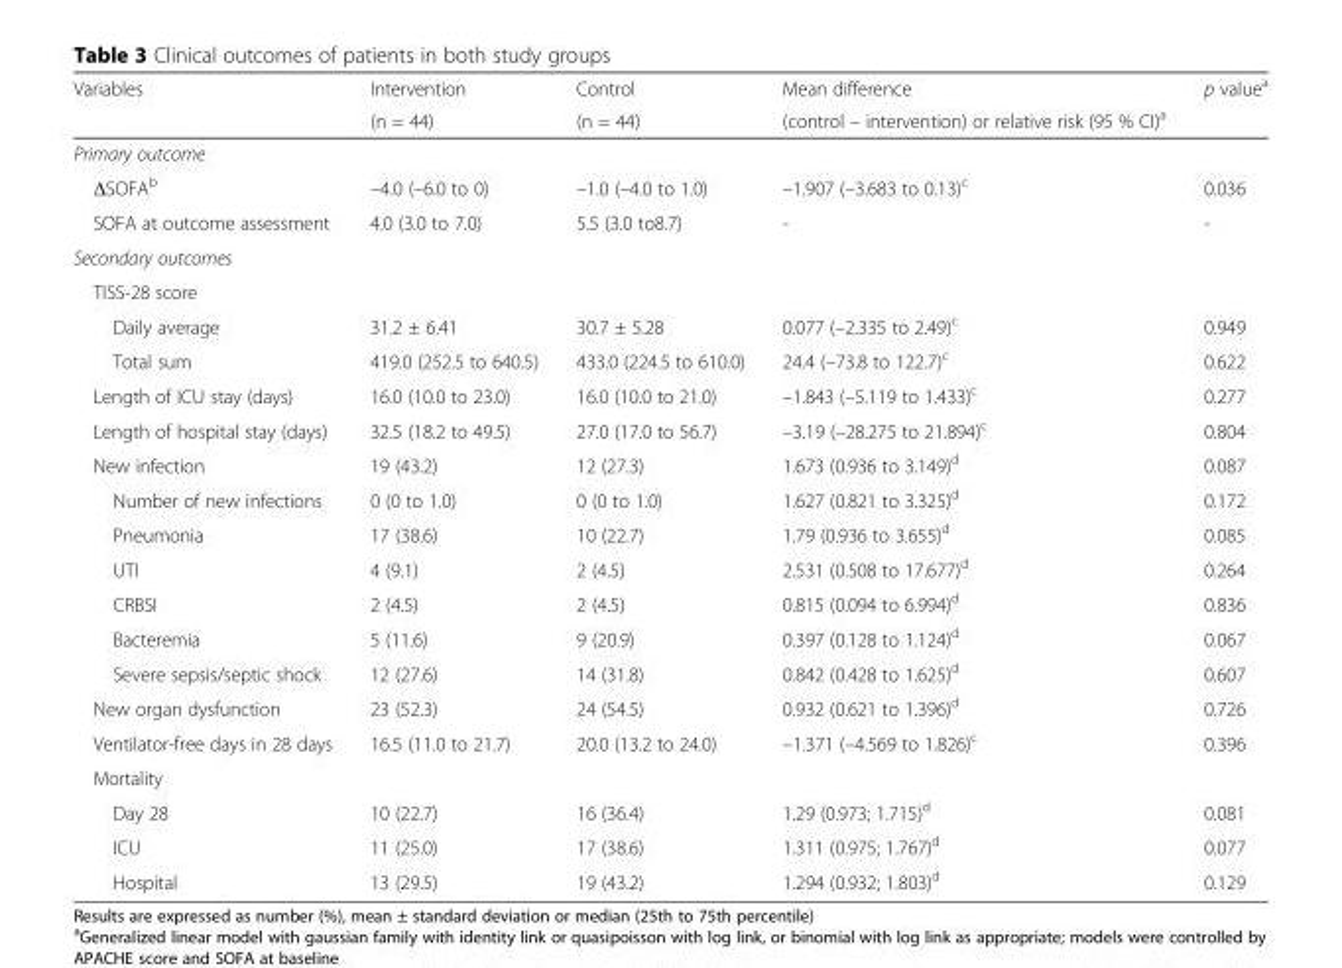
<table><thead><tr><td rowspan="2">Variables</td><td rowspan="2">Intervention (n = 44)</td><td rowspan="2">Control (n = 44)</td><td rowspan="2">Mean difference (control – intervention) or relative risk (95 % CI)<sup>a</sup></td><td rowspan="2">p value<sup>a</sup></td></tr><tr></tr></thead><tbody><tr><td colspan="5">Primary outcome</td></tr><tr><td>ΔSOFA<sup>b</sup></td><td>–4.0 (–6.0 to 0)</td><td>–1.0 (–4.0 to 1.0)</td><td>–1.907 (–3.683 to 0.13)<sup>c</sup></td><td>0.036</td></tr><tr><td>SOFA at outcome assessment</td><td>4.0 (3.0 to 7.0)</td><td>5.5 (3.0 to8.7)</td><td>-</td><td>-</td></tr><tr><td colspan="5">Secondary outcomes</td></tr><tr><td colspan="5">TISS-28 score</td></tr><tr><td>Daily average</td><td>31.2 ± 6.41</td><td>30.7 ± 5.28</td><td>0.077 (–2.335 to 2.49)<sup>c</sup></td><td>0.949</td></tr><tr><td>Total sum</td><td>419.0 (252.5 to 640.5)</td><td>433.0 (224.5 to 610.0)</td><td>24.4 (–73.8 to 122.7)<sup>c</sup></td><td>0.622</td></tr><tr><td>Length of ICU stay (days)</td><td>16.0 (10.0 to 23.0)</td><td>16.0 (10.0 to 21.0)</td><td>–1.843 (–5.119 to 1.433)<sup>c</sup></td><td>0.277</td></tr><tr><td>Length of hospital stay (days)</td><td>32.5 (18.2 to 49.5)</td><td>27.0 (17.0 to 56.7)</td><td>–3.19 (–28.275 to 21.894)<sup>c</sup></td><td>0.804</td></tr><tr><td>New infection</td><td>19 (43.2)</td><td>12 (27.3)</td><td>1.673 (0.936 to 3.149)<sup>d</sup></td><td>0.087</td></tr><tr><td>Number of new infections</td><td>0 (0 to 1.0)</td><td>0 (0 to 1.0)</td><td>1.627 (0.821 to 3.325)<sup>d</sup></td><td>0.172</td></tr><tr><td>Pneumonia</td><td>17 (38.6)</td><td>10 (22.7)</td><td>1.79 (0.936 to 3.655)<sup>d</sup></td><td>0.085</td></tr><tr><td>UTI</td><td>4 (9.1)</td><td>2 (4.5)</td><td>2.531 (0.508 to 17.677)<sup>d</sup></td><td>0.264</td></tr><tr><td>CRBSI</td><td>2 (4.5)</td><td>2 (4.5)</td><td>0.815 (0.094 to 6.994)<sup>d</sup></td><td>0.836</td></tr><tr><td>Bacteremia</td><td>5 (11.6)</td><td>9 (20.9)</td><td>0.397 (0.128 to 1.124)<sup>d</sup></td><td>0.067</td></tr><tr><td>Severe sepsis/septic shock</td><td>12 (27.6)</td><td>14 (31.8)</td><td>0.842 (0.428 to 1.625)<sup>d</sup></td><td>0.607</td></tr><tr><td>New organ dysfunction</td><td>23 (52.3)</td><td>24 (54.5)</td><td>0.932 (0.621 to 1.396)<sup>d</sup></td><td>0.726</td></tr><tr><td>Ventilator-free days in 28 days</td><td>16.5 (11.0 to 21.7)</td><td>20.0 (13.2 to 24.0)</td><td>–1.371 (–4.569 to 1.826)<sup>c</sup></td><td>0.396</td></tr><tr><td colspan="5">Mortality</td></tr><tr><td>Day 28</td><td>10 (22.7)</td><td>16 (36.4)</td><td>1.29 (0.973; 1.715)<sup>d</sup></td><td>0.081</td></tr><tr><td>ICU</td><td>11 (25.0)</td><td>17 (38.6)</td><td>1.311 (0.975; 1.767)<sup>d</sup></td><td>0.077</td></tr><tr><td>Hospital</td><td>13 (29.5)</td><td>19 (43.2)</td><td>1.294 (0.932; 1.803)<sup>d</sup></td><td>0.129</td></tr></tbody></table>